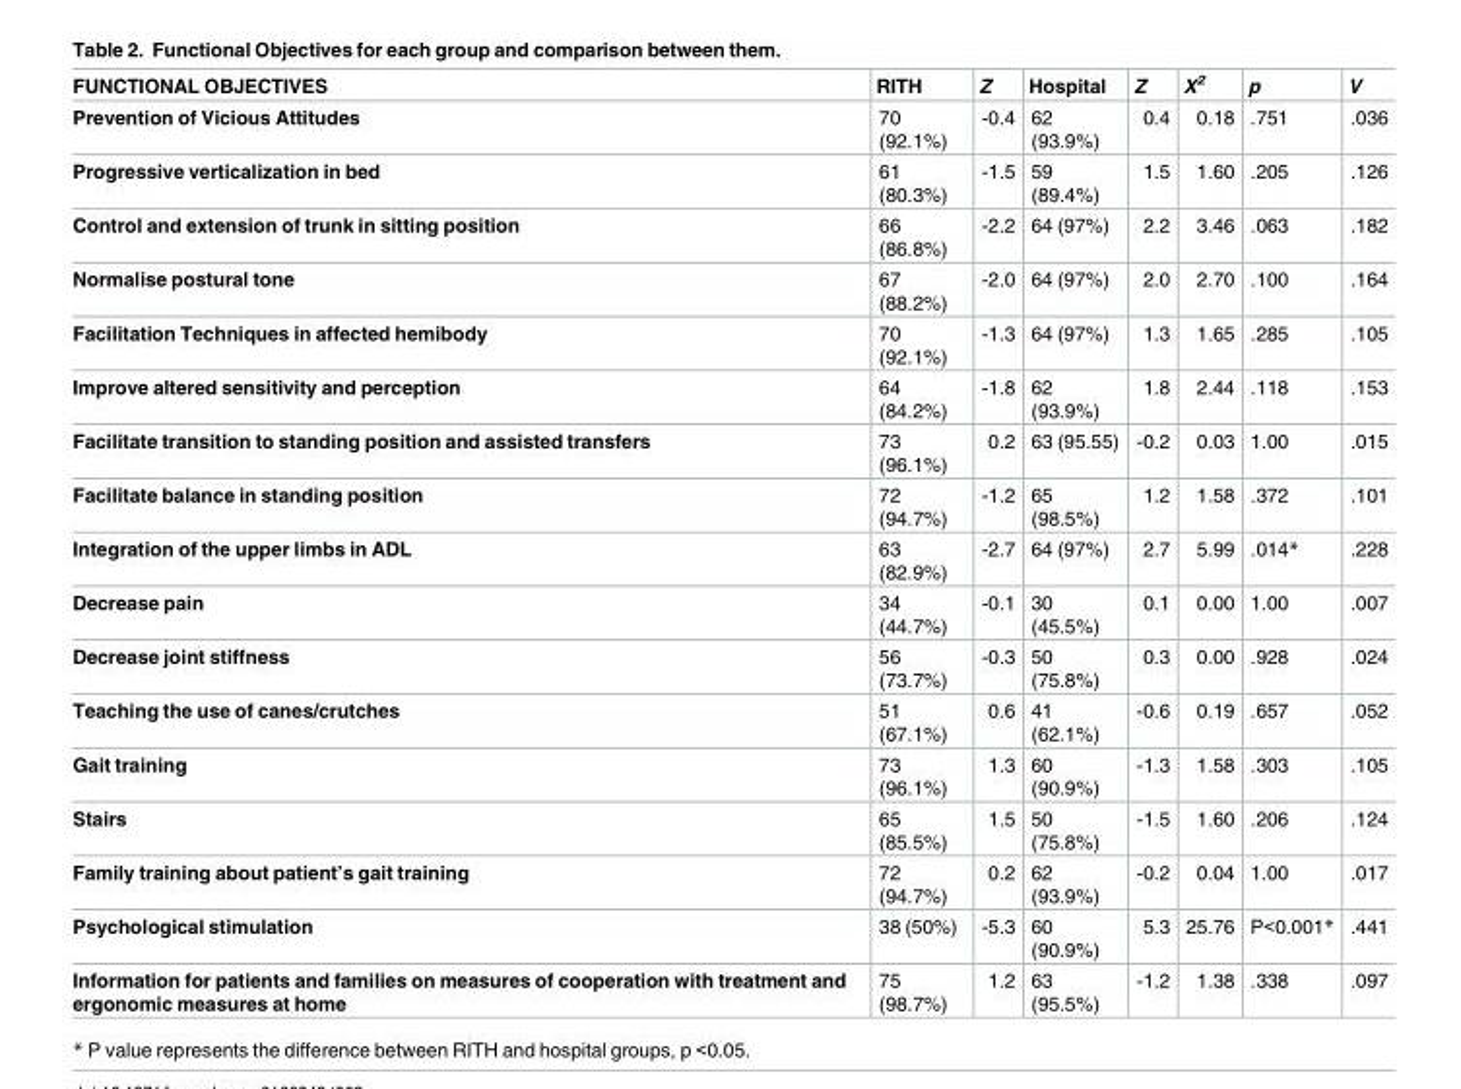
<table><thead><tr><td>FUNCTIONAL OBJECTIVES</td><td>RITH</td><td>Z</td><td>Hospital</td><td>Z</td><td>X<sup>2</sup></td><td>p</td><td>V</td></tr></thead><tbody><tr><td>Prevention of Vicious Attitudes</td><td>70 (92.1%)</td><td>-0.4</td><td>62 (93.9%)</td><td>0.4</td><td>0.18</td><td>.751</td><td>.036</td></tr><tr><td>Progressive verticalization in bed</td><td>61 (80.3%)</td><td>-1.5</td><td>59 (89.4%)</td><td>1.5</td><td>1.60</td><td>.205</td><td>.126</td></tr><tr><td>Control and extension of trunk in sitting position</td><td>66 (86.8%)</td><td>-2.2</td><td>64 (97%)</td><td>2.2</td><td>3.46</td><td>.063</td><td>.182</td></tr><tr><td>Normalise postural tone</td><td>67 (88.2%)</td><td>-2.0</td><td>64 (97%)</td><td>2.0</td><td>2.70</td><td>.100</td><td>.164</td></tr><tr><td>Facilitation Techniques in affected hemibody</td><td>70 (92.1%)</td><td>-1.3</td><td>64 (97%)</td><td>1.3</td><td>1.65</td><td>.285</td><td>.105</td></tr><tr><td>Improve altered sensitivity and perception</td><td>64 (84.2%)</td><td>-1.8</td><td>62 (93.9%)</td><td>1.8</td><td>2.44</td><td>.118</td><td>.153</td></tr><tr><td>Facilitate transition to standing position and assisted transfers</td><td>73 (96.1%)</td><td>0.2</td><td>63 (95.55)</td><td>-0.2</td><td>0.03</td><td>1.00</td><td>.015</td></tr><tr><td>Facilitate balance in standing position</td><td>72 (94.7%)</td><td>-1.2</td><td>65 (98.5%)</td><td>1.2</td><td>1.58</td><td>.372</td><td>.101</td></tr><tr><td>Integration of the upper limbs in ADL</td><td>63 (82.9%)</td><td>-2.7</td><td>64 (97%)</td><td>2.7</td><td>5.99</td><td>.014*</td><td>.228</td></tr><tr><td>Decrease pain</td><td>34 (44.7%)</td><td>-0.1</td><td>30 (45.5%)</td><td>0.1</td><td>0.00</td><td>1.00</td><td>.007</td></tr><tr><td>Decrease joint stiffness</td><td>56 (73.7%)</td><td>-0.3</td><td>50 (75.8%)</td><td>0.3</td><td>0.00</td><td>.928</td><td>.024</td></tr><tr><td>Teaching the use of canes/crutches</td><td>51 (67.1%)</td><td>0.6</td><td>41 (62.1%)</td><td>-0.6</td><td>0.19</td><td>.657</td><td>.052</td></tr><tr><td>Gait training</td><td>73 (96.1%)</td><td>1.3</td><td>60 (90.9%)</td><td>-1.3</td><td>1.58</td><td>.303</td><td>.105</td></tr><tr><td>Stairs</td><td>65 (85.5%)</td><td>1.5</td><td>50 (75.8%)</td><td>-1.5</td><td>1.60</td><td>.206</td><td>.124</td></tr><tr><td>Family training about patient’s gait training</td><td>72 (94.7%)</td><td>0.2</td><td>62 (93.9%)</td><td>-0.2</td><td>0.04</td><td>1.00</td><td>.017</td></tr><tr><td>Psychological stimulation</td><td>38 (50%)</td><td>-5.3</td><td>60 (90.9%)</td><td>5.3</td><td>25.76</td><td>P&lt;0.001*</td><td>.441</td></tr><tr><td>Information for patients and families on measures of cooperation with treatment and ergonomic measures at home</td><td>75 (98.7%)</td><td>1.2</td><td>63 (95.5%)</td><td>-1.2</td><td>1.38</td><td>.338</td><td>.097</td></tr></tbody></table>